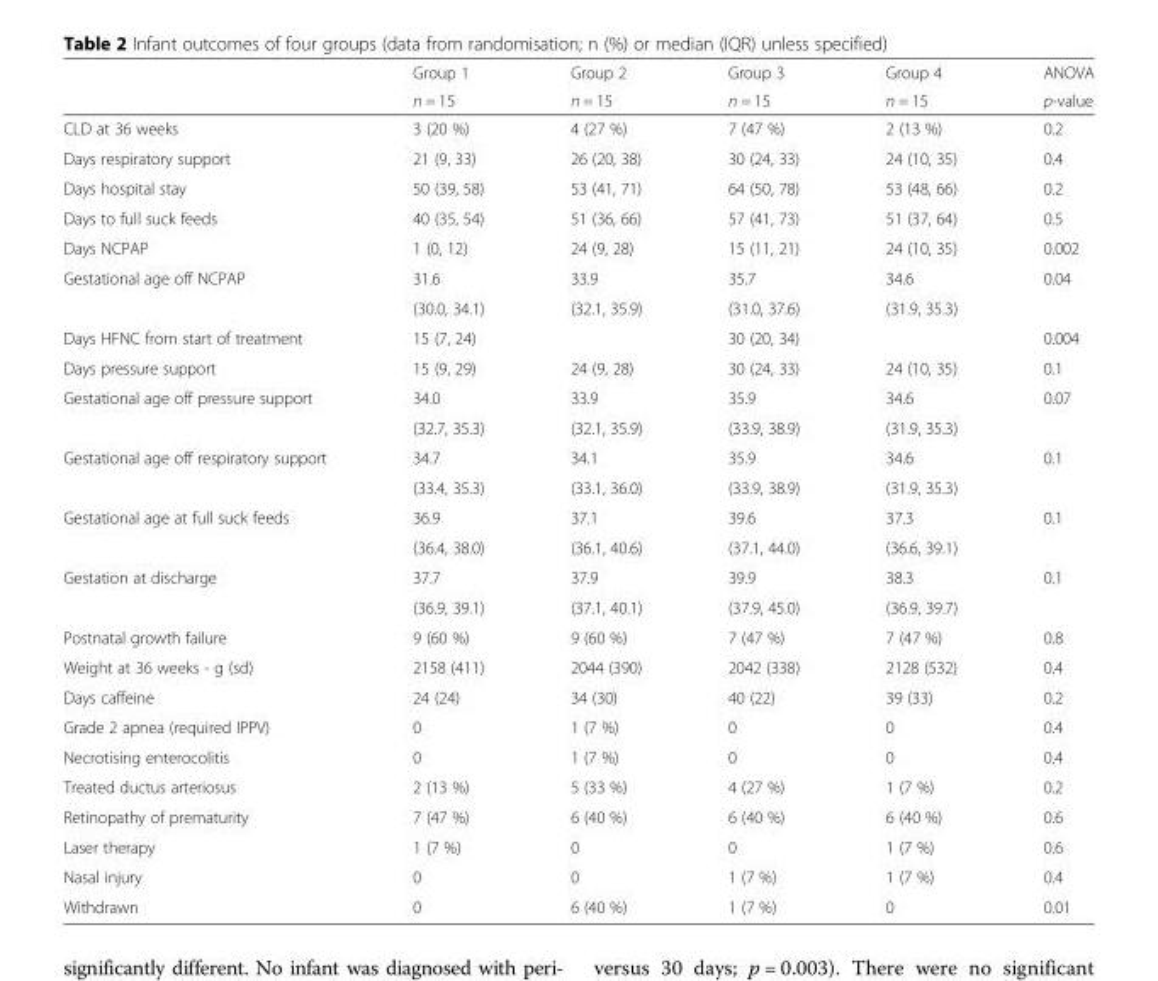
<table><thead><tr><td rowspan="2"></td><td rowspan="2">Group 1 n = 15</td><td rowspan="2">Group 2 n = 15</td><td rowspan="2">Group 3 n = 15</td><td rowspan="2">Group 4 n = 15</td><td rowspan="2">ANOVA p-value</td></tr><tr></tr></thead><tbody><tr><td>CLD at 36 weeks</td><td>3 (20 %)</td><td>4 (27 %)</td><td>7 (47 %)</td><td>2 (13 %)</td><td>0.2</td></tr><tr><td>Days respiratory support</td><td>21 (9, 33)</td><td>26 (20, 38)</td><td>30 (24, 33)</td><td>24 (10, 35)</td><td>0.4</td></tr><tr><td>Days hospital stay</td><td>50 (39, 58)</td><td>53 (41, 71)</td><td>64 (50, 78)</td><td>53 (48, 66)</td><td>0.2</td></tr><tr><td>Days to full suck feeds</td><td>40 (35, 54)</td><td>51 (36, 66)</td><td>57 (41, 73)</td><td>51 (37, 64)</td><td>0.5</td></tr><tr><td>Days NCPAP</td><td>1 (0, 12)</td><td>24 (9, 28)</td><td>15 (11, 21)</td><td>24 (10, 35)</td><td>0.002</td></tr><tr><td rowspan="2">Gestational age off NCPAP</td><td>31.6</td><td>33.9</td><td>35.7</td><td>34.6</td><td rowspan="2">0.04</td></tr><tr><td>(30.0, 34.1)</td><td>(32.1, 35.9)</td><td>(31.0, 37.6)</td><td>(31.9, 35.3)</td></tr><tr><td>Days HFNC from start of treatment</td><td>15 (7, 24)</td><td></td><td>30 (20, 34)</td><td></td><td>0.004</td></tr><tr><td>Days pressure support</td><td>15 (9, 29)</td><td>24 (9, 28)</td><td>30 (24, 33)</td><td>24 (10, 35)</td><td>0.1</td></tr><tr><td rowspan="2">Gestational age off pressure support</td><td>34.0</td><td>33.9</td><td>35.9</td><td>34.6</td><td rowspan="2">0.07</td></tr><tr><td>(32.7, 35.3)</td><td>(32.1, 35.9)</td><td>(33.9, 38.9)</td><td>(31.9, 35.3)</td></tr><tr><td rowspan="2">Gestational age off respiratory support</td><td>34.7</td><td>34.1</td><td>35.9</td><td>34.6</td><td rowspan="2">0.1</td></tr><tr><td>(33.4, 35.3)</td><td>(33.1, 36.0)</td><td>(33.9, 38.9)</td><td>(31.9, 35.3)</td></tr><tr><td rowspan="2">Gestational age at full suck feeds</td><td>36.9</td><td>37.1</td><td>39.6</td><td>37.3</td><td rowspan="2">0.1</td></tr><tr><td>(36.4, 38.0)</td><td>(36.1, 40.6)</td><td>(37.1, 44.0)</td><td>(36.6, 39.1)</td></tr><tr><td rowspan="2">Gestation at discharge</td><td>37.7</td><td>37.9</td><td>39.9</td><td>38.3</td><td rowspan="2">0.1</td></tr><tr><td>(36.9, 39.1)</td><td>(37.1, 40.1)</td><td>(37.9, 45.0)</td><td>(36.9, 39.7)</td></tr><tr><td>Postnatal growth failure</td><td>9 (60 %)</td><td>9 (60 %)</td><td>7 (47 %)</td><td>7 (47 %)</td><td>0.8</td></tr><tr><td>Weight at 36 weeks - g (sd)</td><td>2158 (411)</td><td>2044 (390)</td><td>2042 (338)</td><td>2128 (532)</td><td>0.4</td></tr><tr><td>Days caffeine</td><td>24 (24)</td><td>34 (30)</td><td>40 (22)</td><td>39 (33)</td><td>0.2</td></tr><tr><td>Grade 2 apnea (required IPPV)</td><td>0</td><td>1 (7 %)</td><td>0</td><td>0</td><td>0.4</td></tr><tr><td>Necrotising enterocolitis</td><td>0</td><td>1 (7 %)</td><td>0</td><td>0</td><td>0.4</td></tr><tr><td>Treated ductus arteriosus</td><td>2 (13 %)</td><td>5 (33 %)</td><td>4 (27 %)</td><td>1 (7 %)</td><td>0.2</td></tr><tr><td>Retinopathy of prematurity</td><td>7 (47 %)</td><td>6 (40 %)</td><td>6 (40 %)</td><td>6 (40 %)</td><td>0.6</td></tr><tr><td>Laser therapy</td><td>1 (7 %)</td><td>0</td><td>0</td><td>1 (7 %)</td><td>0.6</td></tr><tr><td>Nasal injury</td><td>0</td><td>0</td><td>1 (7 %)</td><td>1 (7 %)</td><td>0.4</td></tr><tr><td>Withdrawn</td><td>0</td><td>6 (40 %)</td><td>1 (7 %)</td><td>0</td><td>0.01</td></tr></tbody></table>